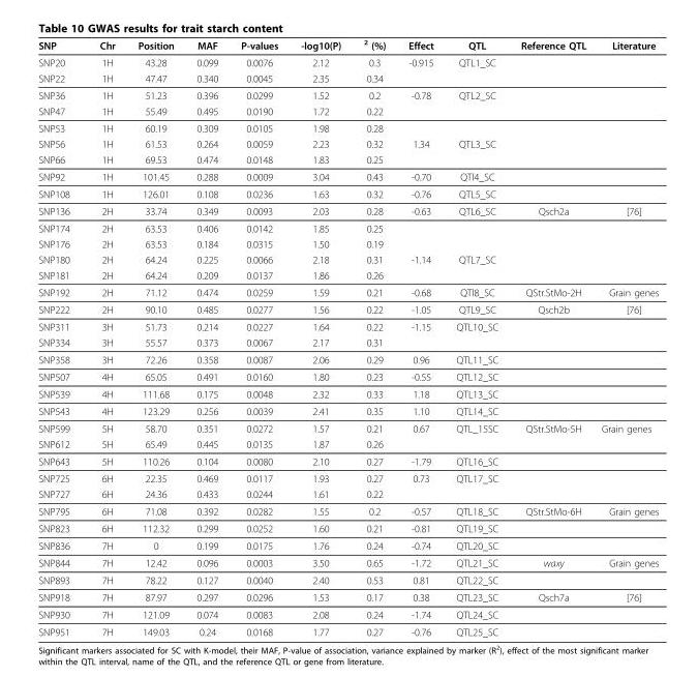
<table><thead><tr><td>SNP</td><td>Chr</td><td>Position</td><td>MAF</td><td>P-values</td><td>-log10(P)</td><td><sup>2</sup> (%)</td><td>Effect</td><td>QTL</td><td>Reference QTL</td><td>Literature</td></tr></thead><tbody><tr><td>SNP20</td><td>1H</td><td>43.28</td><td>0.099</td><td>0.0076</td><td>2.12</td><td>0.3</td><td>-0.915</td><td>QTL1_SC</td><td></td><td></td></tr><tr><td>SNP22</td><td>1H</td><td>47.47</td><td>0.340</td><td>0.0045</td><td>2.35</td><td>0.34</td><td></td><td></td><td></td><td></td></tr><tr><td>SNP36</td><td>1H</td><td>51.23</td><td>0.396</td><td>0.0299</td><td>1.52</td><td>0.2</td><td>-0.78</td><td>QTL2_SC</td><td></td><td></td></tr><tr><td>SNP47</td><td>1H</td><td>55.49</td><td>0.495</td><td>0.0190</td><td>1.72</td><td>0.22</td><td></td><td></td><td></td><td></td></tr><tr><td>SNP53</td><td>1H</td><td>60.19</td><td>0.309</td><td>0.0105</td><td>1.98</td><td>0.28</td><td></td><td></td><td></td><td></td></tr><tr><td>SNP56</td><td>1H</td><td>61.53</td><td>0.264</td><td>0.0059</td><td>2.23</td><td>0.32</td><td>1.34</td><td>QTL3_SC</td><td></td><td></td></tr><tr><td>SNP66</td><td>1H</td><td>69.53</td><td>0.474</td><td>0.0148</td><td>1.83</td><td>0.25</td><td></td><td></td><td></td><td></td></tr><tr><td>SNP92</td><td>1H</td><td>101.45</td><td>0.288</td><td>0.0009</td><td>3.04</td><td>0.43</td><td>-0.70</td><td>QTl4_SC</td><td></td><td></td></tr><tr><td>SNP108</td><td>1H</td><td>126.01</td><td>0.108</td><td>0.0236</td><td>1.63</td><td>0.32</td><td>-0.76</td><td>QTL5_SC</td><td></td><td></td></tr><tr><td>SNP136</td><td>2H</td><td>33.74</td><td>0.349</td><td>0.0093</td><td>2.03</td><td>0.28</td><td>-0.63</td><td>QTL6_SC</td><td>Qsch2a</td><td>[76]</td></tr><tr><td>SNP174</td><td>2H</td><td>63.53</td><td>0.406</td><td>0.0142</td><td>1.85</td><td>0.25</td><td></td><td></td><td></td><td></td></tr><tr><td>SNP176</td><td>2H</td><td>63.53</td><td>0.184</td><td>0.0315</td><td>1.50</td><td>0.19</td><td></td><td></td><td></td><td></td></tr><tr><td>SNP180</td><td>2H</td><td>64.24</td><td>0.225</td><td>0.0066</td><td>2.18</td><td>0.31</td><td>-1.14</td><td>QTL7_SC</td><td></td><td></td></tr><tr><td>SNP181</td><td>2H</td><td>64.24</td><td>0.209</td><td>0.0137</td><td>1.86</td><td>0.26</td><td></td><td></td><td></td><td></td></tr><tr><td>SNP192</td><td>2H</td><td>71.12</td><td>0.474</td><td>0.0259</td><td>1.59</td><td>0.21</td><td>-0.68</td><td>QTl8_SC</td><td>QStr.StMo-2H</td><td>Grain genes</td></tr><tr><td>SNP222</td><td>2H</td><td>90.10</td><td>0.485</td><td>0.0277</td><td>1.56</td><td>0.22</td><td>-1.05</td><td>QTL9_SC</td><td>Qsch2b</td><td>[76]</td></tr><tr><td>SNP311</td><td>3H</td><td>51.73</td><td>0.214</td><td>0.0227</td><td>1.64</td><td>0.22</td><td>-1.15</td><td>QTL10_SC</td><td></td><td></td></tr><tr><td>SNP334</td><td>3H</td><td>55.57</td><td>0.373</td><td>0.0067</td><td>2.17</td><td>0.31</td><td></td><td></td><td></td><td></td></tr><tr><td>SNP358</td><td>3H</td><td>72.26</td><td>0.358</td><td>0.0087</td><td>2.06</td><td>0.29</td><td>0.96</td><td>QTL11_SC</td><td></td><td></td></tr><tr><td>SNP507</td><td>4H</td><td>65.05</td><td>0.491</td><td>0.0160</td><td>1.80</td><td>0.23</td><td>-0.55</td><td>QTL12_SC</td><td></td><td></td></tr><tr><td>SNP539</td><td>4H</td><td>111.68</td><td>0.175</td><td>0.0048</td><td>2.32</td><td>0.33</td><td>1.18</td><td>QTL13_SC</td><td></td><td></td></tr><tr><td>SNP543</td><td>4H</td><td>123.29</td><td>0.256</td><td>0.0039</td><td>2.41</td><td>0.35</td><td>1.10</td><td>QTL14_SC</td><td></td><td></td></tr><tr><td>SNP599</td><td>5H</td><td>58.70</td><td>0.351</td><td>0.0272</td><td>1.57</td><td>0.21</td><td>0.67</td><td>QTL_15SC</td><td>QStr.StMo-5H</td><td>Grain genes</td></tr><tr><td>SNP612</td><td>5H</td><td>65.49</td><td>0.445</td><td>0.0135</td><td>1.87</td><td>0.26</td><td></td><td></td><td></td><td></td></tr><tr><td>SNP643</td><td>5H</td><td>110.26</td><td>0.104</td><td>0.0080</td><td>2.10</td><td>0.27</td><td>-1.79</td><td>QTL16_SC</td><td></td><td></td></tr><tr><td>SNP725</td><td>6H</td><td>22.35</td><td>0.469</td><td>0.0117</td><td>1.93</td><td>0.27</td><td>0.73</td><td>QTL17_SC</td><td></td><td></td></tr><tr><td>SNP727</td><td>6H</td><td>24.36</td><td>0.433</td><td>0.0244</td><td>1.61</td><td>0.22</td><td></td><td></td><td></td><td></td></tr><tr><td>SNP795</td><td>6H</td><td>71.08</td><td>0.392</td><td>0.0282</td><td>1.55</td><td>0.2</td><td>-0.57</td><td>QTL18_SC</td><td>QStr.StMo-6H</td><td>Grain genes</td></tr><tr><td>SNP823</td><td>6H</td><td>112.32</td><td>0.299</td><td>0.0252</td><td>1.60</td><td>0.21</td><td>-0.81</td><td>QTL19_SC</td><td></td><td></td></tr><tr><td>SNP836</td><td>7H</td><td>0</td><td>0.199</td><td>0.0175</td><td>1.76</td><td>0.24</td><td>-0.74</td><td>QTL20_SC</td><td></td><td></td></tr><tr><td>SNP844</td><td>7H</td><td>12.42</td><td>0.096</td><td>0.0003</td><td>3.50</td><td>0.65</td><td>-1.72</td><td>QTL21_SC</td><td>waxy</td><td>Grain genes</td></tr><tr><td>SNP893</td><td>7H</td><td>78.22</td><td>0.127</td><td>0.0040</td><td>2.40</td><td>0.53</td><td>0.81</td><td>QTL22_SC</td><td></td><td></td></tr><tr><td>SNP918</td><td>7H</td><td>87.97</td><td>0.297</td><td>0.0296</td><td>1.53</td><td>0.17</td><td>0.38</td><td>QTL23_SC</td><td>Qsch7a</td><td>[76]</td></tr><tr><td>SNP930</td><td>7H</td><td>121.09</td><td>0.074</td><td>0.0083</td><td>2.08</td><td>0.24</td><td>-1.74</td><td>QTL24_SC</td><td></td><td></td></tr><tr><td>SNP951</td><td>7H</td><td>149.03</td><td>0.24</td><td>0.0168</td><td>1.77</td><td>0.27</td><td>-0.76</td><td>QTL25_SC</td><td></td><td></td></tr></tbody></table>